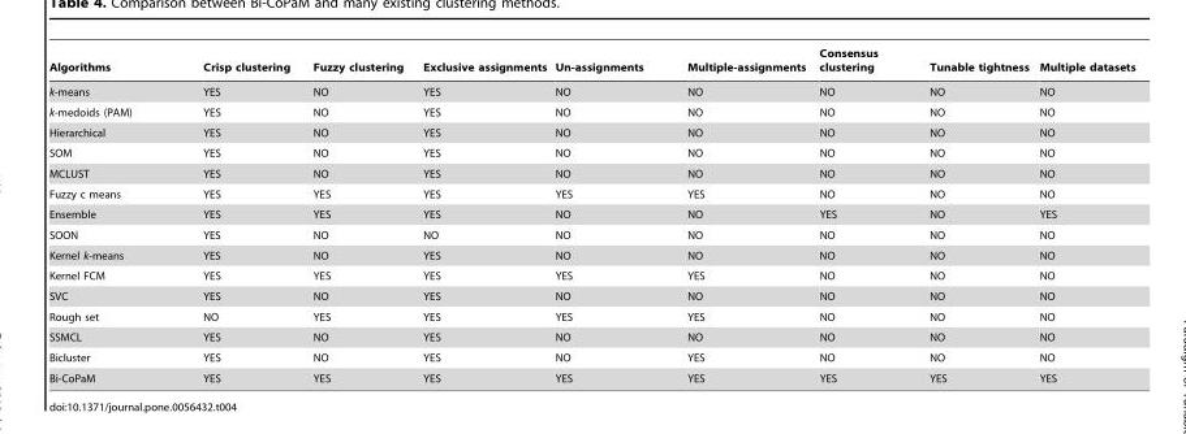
<table><thead><tr><td>Algorithms</td><td>Crisp clustering</td><td>Fuzzy clustering</td><td>Exclusive assignments</td><td>Un-assignments</td><td>Multiple-assignments</td><td>Consensus clustering</td><td>Tunable tightness</td><td>Multiple datasets</td></tr></thead><tbody><tr><td>k-means</td><td>YES</td><td>NO</td><td>YES</td><td>NO</td><td>NO</td><td>NO</td><td>NO</td><td>NO</td></tr><tr><td>k-medoids (PAM)</td><td>YES</td><td>NO</td><td>YES</td><td>NO</td><td>NO</td><td>NO</td><td>NO</td><td>NO</td></tr><tr><td>Hierarchical</td><td>YES</td><td>NO</td><td>YES</td><td>NO</td><td>NO</td><td>NO</td><td>NO</td><td>NO</td></tr><tr><td>SOM</td><td>YES</td><td>NO</td><td>YES</td><td>NO</td><td>NO</td><td>NO</td><td>NO</td><td>NO</td></tr><tr><td>MCLUST</td><td>YES</td><td>NO</td><td>YES</td><td>NO</td><td>NO</td><td>NO</td><td>NO</td><td>NO</td></tr><tr><td>Fuzzy c means</td><td>YES</td><td>YES</td><td>YES</td><td>YES</td><td>YES</td><td>NO</td><td>NO</td><td>NO</td></tr><tr><td>Ensemble</td><td>YES</td><td>YES</td><td>YES</td><td>NO</td><td>NO</td><td>YES</td><td>NO</td><td>YES</td></tr><tr><td>SOON</td><td>YES</td><td>NO</td><td>NO</td><td>NO</td><td>NO</td><td>NO</td><td>NO</td><td>NO</td></tr><tr><td>Kernel k-means</td><td>YES</td><td>NO</td><td>YES</td><td>NO</td><td>NO</td><td>NO</td><td>NO</td><td>NO</td></tr><tr><td>Kernel FCM</td><td>YES</td><td>YES</td><td>YES</td><td>YES</td><td>YES</td><td>NO</td><td>NO</td><td>NO</td></tr><tr><td>SVC</td><td>YES</td><td>NO</td><td>YES</td><td>NO</td><td>NO</td><td>NO</td><td>NO</td><td>NO</td></tr><tr><td>Rough set</td><td>NO</td><td>YES</td><td>YES</td><td>YES</td><td>YES</td><td>NO</td><td>NO</td><td>NO</td></tr><tr><td>SSMCL</td><td>YES</td><td>NO</td><td>YES</td><td>NO</td><td>NO</td><td>NO</td><td>NO</td><td>NO</td></tr><tr><td>Bicluster</td><td>YES</td><td>NO</td><td>YES</td><td>NO</td><td>YES</td><td>NO</td><td>NO</td><td>NO</td></tr><tr><td>Bi-CoPaM</td><td>YES</td><td>YES</td><td>YES</td><td>YES</td><td>YES</td><td>YES</td><td>YES</td><td>YES</td></tr></tbody></table>